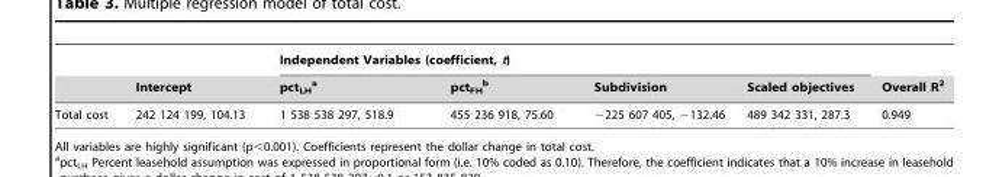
<table><thead><tr><td rowspan="2"></td><td rowspan="2">Intercept</td><td colspan="4">Independent Variables (coefficient, t)</td><td rowspan="2">Overall R<sup>2</sup></td></tr><tr><td>pct<sub>LH</sub> a</td><td>pct<sub>FH</sub> b</td><td>Subdivision</td><td>Scaled objectives</td></tr></thead><tbody><tr><td>Total cost</td><td>242 124 199, 104.13</td><td>1 538 538 297, 518.9</td><td>455 236 918, 75.60</td><td>−225 607 405, −132.46</td><td>489 342 331, 287.3</td><td>0.949</td></tr></tbody></table>